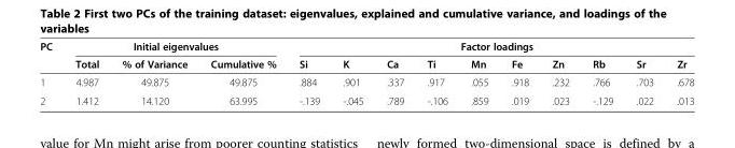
<table><thead><tr><td rowspan="2">PC</td><td colspan="3">Initial eigenvalues</td><td colspan="10">Factor loadings</td></tr><tr><td>Total</td><td>% of Variance</td><td>Cumulative %</td><td>Si</td><td>K</td><td>Ca</td><td>Ti</td><td>Mn</td><td>Fe</td><td>Zn</td><td>Rb</td><td>Sr</td><td>Zr</td></tr></thead><tbody><tr><td>1</td><td>4.987</td><td>49.875</td><td>49.875</td><td>.884</td><td>.901</td><td>.337</td><td>.917</td><td>.055</td><td>.918</td><td>.232</td><td>.766</td><td>.703</td><td>.678</td></tr><tr><td>2</td><td>1.412</td><td>14.120</td><td>63.995</td><td>-.139</td><td>-.045</td><td>.789</td><td>-.106</td><td>.859</td><td>.019</td><td>.023</td><td>-.129</td><td>.022</td><td>.013</td></tr></tbody></table>